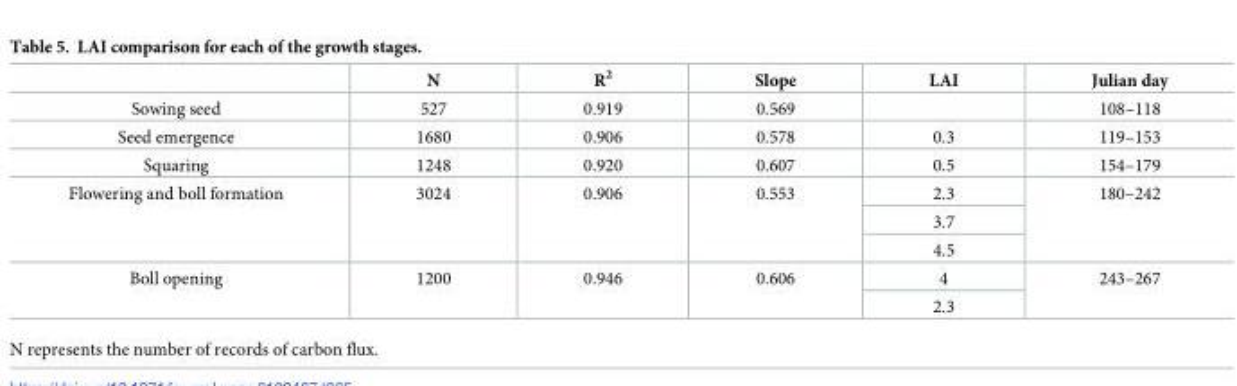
<table><thead><tr><td></td><td>N</td><td>R<sup>2</sup></td><td>Slope</td><td>LAI</td><td>Julian day</td></tr></thead><tbody><tr><td>Sowing seed</td><td>527</td><td>0.919</td><td>0.569</td><td></td><td>108–118</td></tr><tr><td>Seed emergence</td><td>1680</td><td>0.906</td><td>0.578</td><td>0.3</td><td>119–153</td></tr><tr><td>Squaring</td><td>1248</td><td>0.920</td><td>0.607</td><td>0.5</td><td>154–179</td></tr><tr><td rowspan="3">Flowering and boll formation</td><td rowspan="3">3024</td><td rowspan="3">0.906</td><td rowspan="3">0.553</td><td>2.3</td><td rowspan="3">180–242</td></tr><tr><td>3.7</td></tr><tr><td>4.5</td></tr><tr><td rowspan="2">Boll opening</td><td rowspan="2">1200</td><td rowspan="2">0.946</td><td rowspan="2">0.606</td><td>4</td><td rowspan="2">243–267</td></tr><tr><td>2.3</td></tr></tbody></table>